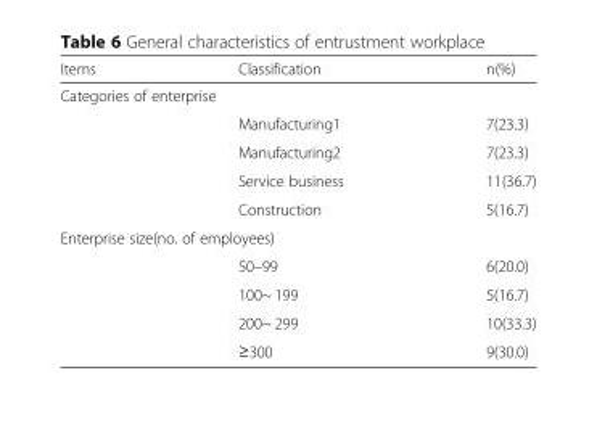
<table><thead><tr><td>Items</td><td>Classification</td><td>n(%)</td></tr></thead><tbody><tr><td colspan="3">Categories of enterprise</td></tr><tr><td rowspan="4"></td><td>Manufacturing1</td><td>7(23.3)</td></tr><tr><td>Manufacturing2</td><td>7(23.3)</td></tr><tr><td>Service business</td><td>11(36.7)</td></tr><tr><td>Construction</td><td>5(16.7)</td></tr><tr><td colspan="3">Enterprise size(no. of employees)</td></tr><tr><td rowspan="4"></td><td>50–99</td><td>6(20.0)</td></tr><tr><td>100~ 199</td><td>5(16.7)</td></tr><tr><td>200~ 299</td><td>10(33.3)</td></tr><tr><td>≥300</td><td>9(30.0)</td></tr></tbody></table>